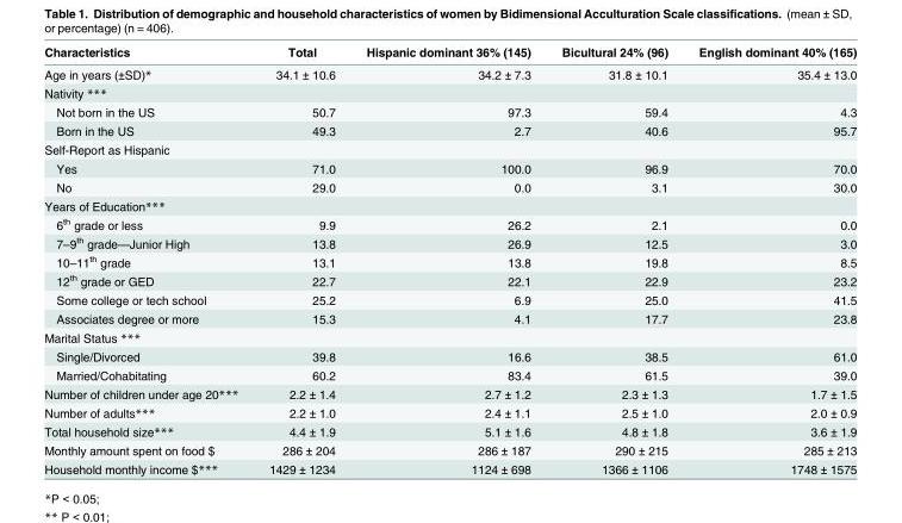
<table><thead><tr><td>Characteristics</td><td>Total</td><td>Hispanic dominant 36% (145)</td><td>Bicultural 24% (96)</td><td>English dominant 40% (165)</td></tr></thead><tbody><tr><td>Age in years (±SD)*</td><td>34.1 ± 10.6</td><td>34.2 ± 7.3</td><td>31.8 ± 10.1</td><td>35.4 ± 13.0</td></tr><tr><td colspan="5">Nativity ***</td></tr><tr><td>Not born in the US</td><td>50.7</td><td>97.3</td><td>59.4</td><td>4.3</td></tr><tr><td>Born in the US</td><td>49.3</td><td>2.7</td><td>40.6</td><td>95.7</td></tr><tr><td colspan="5">Self-Report as Hispanic</td></tr><tr><td>Yes</td><td>71.0</td><td>100.0</td><td>96.9</td><td>70.0</td></tr><tr><td>No</td><td>29.0</td><td>0.0</td><td>3.1</td><td>30.0</td></tr><tr><td colspan="5">Years of Education***</td></tr><tr><td>6<sup>th</sup> grade or less</td><td>9.9</td><td>26.2</td><td>2.1</td><td>0.0</td></tr><tr><td>7–9<sup>th</sup> grade—Junior High</td><td>13.8</td><td>26.9</td><td>12.5</td><td>3.0</td></tr><tr><td>10–11<sup>th</sup> grade</td><td>13.1</td><td>13.8</td><td>19.8</td><td>8.5</td></tr><tr><td>12<sup>th</sup> grade or GED</td><td>22.7</td><td>22.1</td><td>22.9</td><td>23.2</td></tr><tr><td>Some college or tech school</td><td>25.2</td><td>6.9</td><td>25.0</td><td>41.5</td></tr><tr><td>Associates degree or more</td><td>15.3</td><td>4.1</td><td>17.7</td><td>23.8</td></tr><tr><td colspan="5">Marital Status ***</td></tr><tr><td>Single/Divorced</td><td>39.8</td><td>16.6</td><td>38.5</td><td>61.0</td></tr><tr><td>Married/Cohabitating</td><td>60.2</td><td>83.4</td><td>61.5</td><td>39.0</td></tr><tr><td>Number of children under age 20***</td><td>2.2 ± 1.4</td><td>2.7 ± 1.2</td><td>2.3 ± 1.3</td><td>1.7 ± 1.5</td></tr><tr><td>Number of adults***</td><td>2.2 ± 1.0</td><td>2.4 ± 1.1</td><td>2.5 ± 1.0</td><td>2.0 ± 0.9</td></tr><tr><td>Total household size***</td><td>4.4 ± 1.9</td><td>5.1 ± 1.6</td><td>4.8 ± 1.8</td><td>3.6 ± 1.9</td></tr><tr><td>Monthly amount spent on food $</td><td>286 ± 204</td><td>286 ± 187</td><td>290 ± 215</td><td>285 ± 213</td></tr><tr><td>Household monthly income $***</td><td>1429 ± 1234</td><td>1124 ± 698</td><td>1366 ± 1106</td><td>1748 ± 1575</td></tr></tbody></table>